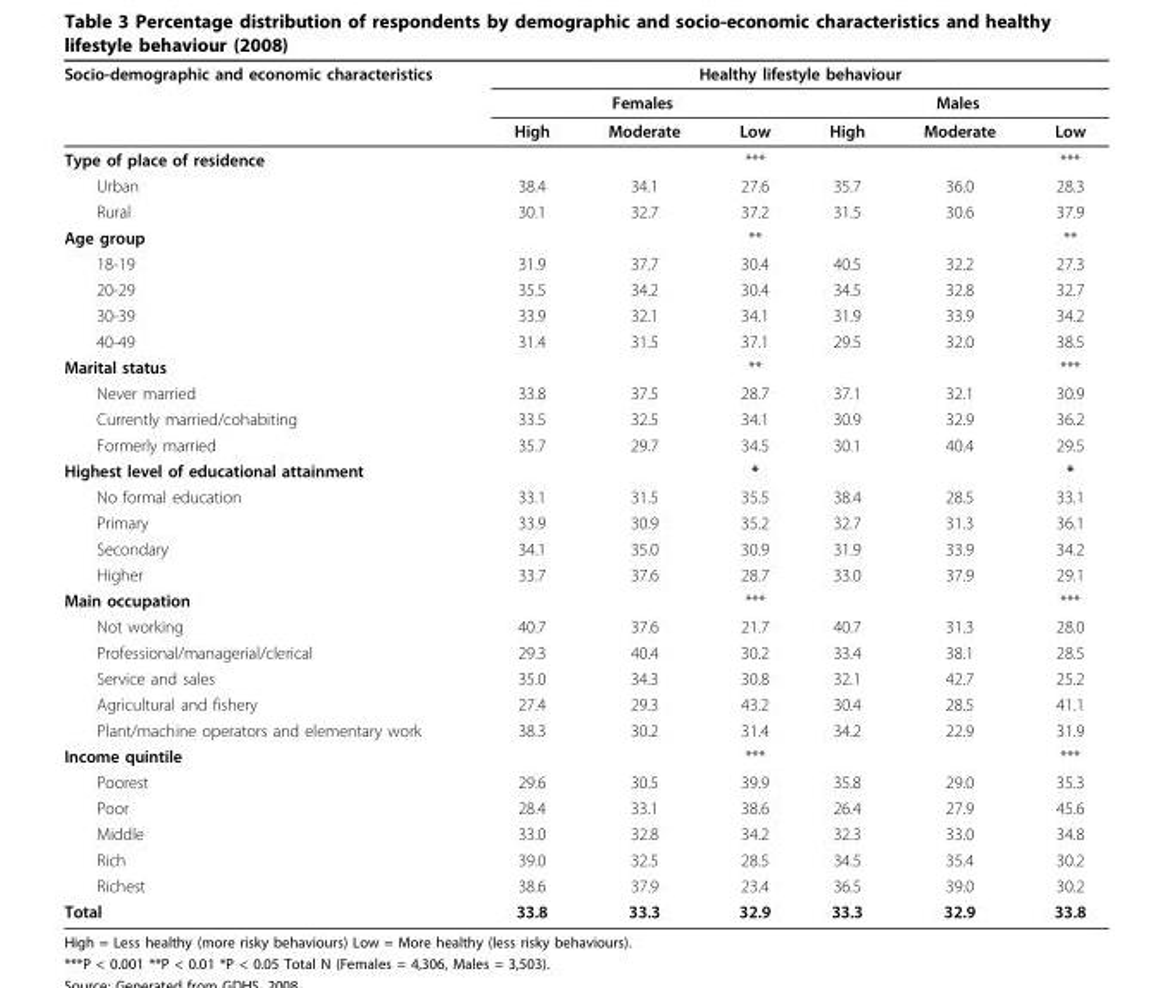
<table><thead><tr><td rowspan="3">Socio-demographic and economic characteristics</td><td colspan="6">Healthy lifestyle behaviour</td></tr><tr><td colspan="3">Females</td><td colspan="3">Males</td></tr><tr><td>High</td><td>Moderate</td><td>Low</td><td>High</td><td>Moderate</td><td>Low</td></tr></thead><tbody><tr><td>Type of place of residence</td><td></td><td></td><td>***</td><td></td><td></td><td>***</td></tr><tr><td>Urban</td><td>38.4</td><td>34.1</td><td>27.6</td><td>35.7</td><td>36.0</td><td>28.3</td></tr><tr><td>Rural</td><td>30.1</td><td>32.7</td><td>37.2</td><td>31.5</td><td>30.6</td><td>37.9</td></tr><tr><td>Age group</td><td></td><td></td><td>**</td><td></td><td></td><td>**</td></tr><tr><td>18-19</td><td>31.9</td><td>37.7</td><td>30.4</td><td>40.5</td><td>32.2</td><td>27.3</td></tr><tr><td>20-29</td><td>35.5</td><td>34.2</td><td>30.4</td><td>34.5</td><td>32.8</td><td>32.7</td></tr><tr><td>30-39</td><td>33.9</td><td>32.1</td><td>34.1</td><td>31.9</td><td>33.9</td><td>34.2</td></tr><tr><td>40-49</td><td>31.4</td><td>31.5</td><td>37.1</td><td>29.5</td><td>32.0</td><td>38.5</td></tr><tr><td>Marital status</td><td></td><td></td><td>**</td><td></td><td></td><td>***</td></tr><tr><td>Never married</td><td>33.8</td><td>37.5</td><td>28.7</td><td>37.1</td><td>32.1</td><td>30.9</td></tr><tr><td>Currently married/cohabiting</td><td>33.5</td><td>32.5</td><td>34.1</td><td>30.9</td><td>32.9</td><td>36.2</td></tr><tr><td>Formerly married</td><td>35.7</td><td>29.7</td><td>34.5</td><td>30.1</td><td>40.4</td><td>29.5</td></tr><tr><td>Highest level of educational attainment</td><td></td><td></td><td>*</td><td></td><td></td><td>*</td></tr><tr><td>No formal education</td><td>33.1</td><td>31.5</td><td>35.5</td><td>38.4</td><td>28.5</td><td>33.1</td></tr><tr><td>Primary</td><td>33.9</td><td>30.9</td><td>35.2</td><td>32.7</td><td>31.3</td><td>36.1</td></tr><tr><td>Secondary</td><td>34.1</td><td>35.0</td><td>30.9</td><td>31.9</td><td>33.9</td><td>34.2</td></tr><tr><td>Higher</td><td>33.7</td><td>37.6</td><td>28.7</td><td>33.0</td><td>37.9</td><td>29.1</td></tr><tr><td>Main occupation</td><td></td><td></td><td>***</td><td></td><td></td><td>***</td></tr><tr><td>Not working</td><td>40.7</td><td>37.6</td><td>21.7</td><td>40.7</td><td>31.3</td><td>28.0</td></tr><tr><td>Professional/managerial/clerical</td><td>29.3</td><td>40.4</td><td>30.2</td><td>33.4</td><td>38.1</td><td>28.5</td></tr><tr><td>Service and sales</td><td>35.0</td><td>34.3</td><td>30.8</td><td>32.1</td><td>42.7</td><td>25.2</td></tr><tr><td>Agricultural and fishery</td><td>27.4</td><td>29.3</td><td>43.2</td><td>30.4</td><td>28.5</td><td>41.1</td></tr><tr><td>Plant/machine operators and elementary work</td><td>38.3</td><td>30.2</td><td>31.4</td><td>34.2</td><td>22.9</td><td>31.9</td></tr><tr><td>Income quintile</td><td></td><td></td><td>***</td><td></td><td></td><td>***</td></tr><tr><td>Poorest</td><td>29.6</td><td>30.5</td><td>39.9</td><td>35.8</td><td>29.0</td><td>35.3</td></tr><tr><td>Poor</td><td>28.4</td><td>33.1</td><td>38.6</td><td>26.4</td><td>27.9</td><td>45.6</td></tr><tr><td>Middle</td><td>33.0</td><td>32.8</td><td>34.2</td><td>32.3</td><td>33.0</td><td>34.8</td></tr><tr><td>Rich</td><td>39.0</td><td>32.5</td><td>28.5</td><td>34.5</td><td>35.4</td><td>30.2</td></tr><tr><td>Richest</td><td>38.6</td><td>37.9</td><td>23.4</td><td>36.5</td><td>39.0</td><td>30.2</td></tr><tr><td>Total</td><td>33.8</td><td>33.3</td><td>32.9</td><td>33.3</td><td>32.9</td><td>33.8</td></tr></tbody></table>